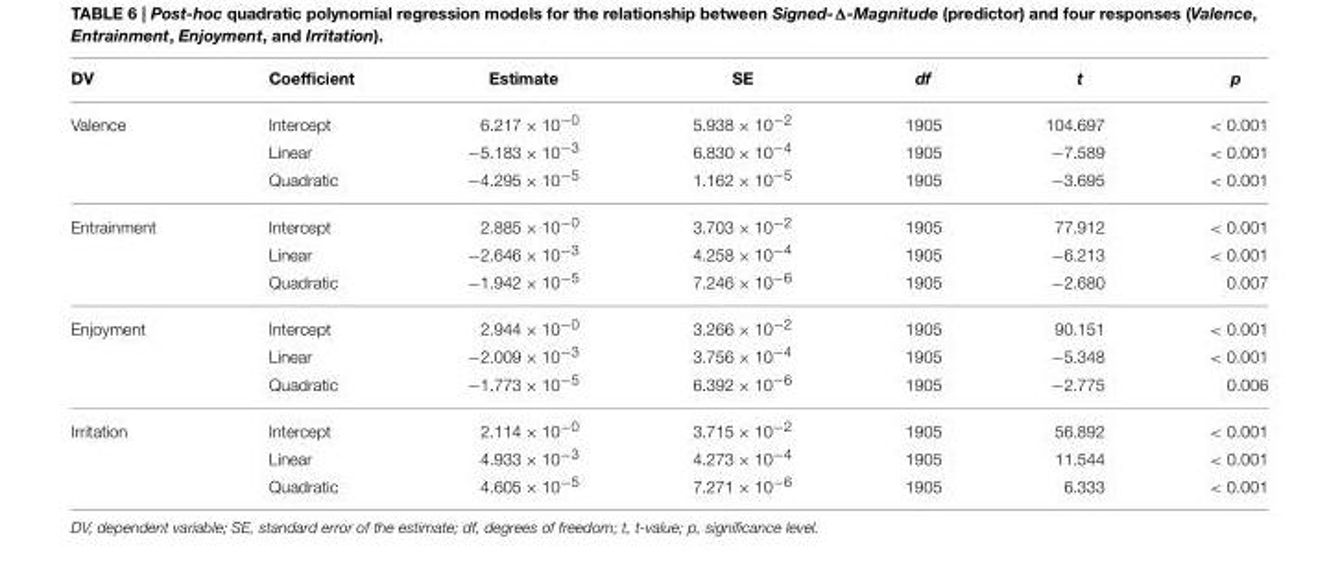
<table><thead><tr><td>DV</td><td>Coefficient</td><td>Estimate</td><td>SE</td><td>df</td><td>t</td><td>p</td></tr></thead><tbody><tr><td rowspan="3">Valence</td><td>Intercept</td><td>6.217 × 10<sup>−0</sup></td><td>5.938 × 10<sup>−2</sup></td><td>1905</td><td>104.697</td><td>&lt; 0.001</td></tr><tr><td>Linear</td><td>−5.183 × 10<sup>−3</sup></td><td>6.830 × 10<sup>−4</sup></td><td>1905</td><td>−7.589</td><td>&lt; 0.001</td></tr><tr><td>Quadratic</td><td>−4.295 × 10<sup>−5</sup></td><td>1.162 × 10<sup>−5</sup></td><td>1905</td><td>−3.695</td><td>&lt; 0.001</td></tr><tr><td rowspan="3">Entrainment</td><td>Intercept</td><td>2.885 × 10<sup>−0</sup></td><td>3.703 × 10<sup>−2</sup></td><td>1905</td><td>77.912</td><td>&lt; 0.001</td></tr><tr><td>Linear</td><td>−2.646 × 10<sup>−3</sup></td><td>4.258 × 10<sup>−4</sup></td><td>1905</td><td>−6.213</td><td>&lt; 0.001</td></tr><tr><td>Quadratic</td><td>−1.942 × 10<sup>−5</sup></td><td>7.246 × 10<sup>−6</sup></td><td>1905</td><td>−2.680</td><td>0.007</td></tr><tr><td rowspan="3">Enjoyment</td><td>Intercept</td><td>2.944 × 10<sup>−0</sup></td><td>3.266 × 10<sup>−2</sup></td><td>1905</td><td>90.151</td><td>&lt; 0.001</td></tr><tr><td>Linear</td><td>−2.009 × 10<sup>−3</sup></td><td>3.756 × 10<sup>−4</sup></td><td>1905</td><td>−5.348</td><td>&lt; 0.001</td></tr><tr><td>Quadratic</td><td>−1.773 × 10<sup>−5</sup></td><td>6.392 × 10<sup>−6</sup></td><td>1905</td><td>−2.775</td><td>0.006</td></tr><tr><td rowspan="3">Irritation</td><td>Intercept</td><td>2.114 × 10<sup>−0</sup></td><td>3.715 × 10<sup>−2</sup></td><td>1905</td><td>56.892</td><td>&lt; 0.001</td></tr><tr><td>Linear</td><td>4.933 × 10<sup>−3</sup></td><td>4.273 × 10<sup>−4</sup></td><td>1905</td><td>11.544</td><td>&lt; 0.001</td></tr><tr><td>Quadratic</td><td>4.605 × 10<sup>−5</sup></td><td>7.271 × 10<sup>−6</sup></td><td>1905</td><td>6.333</td><td>&lt; 0.001</td></tr></tbody></table>